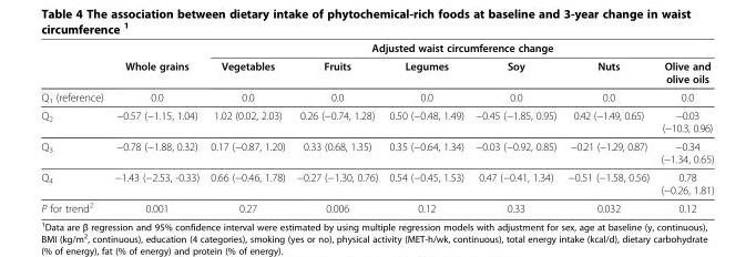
<table><thead><tr><td rowspan="2"></td><td rowspan="2">Whole grains</td><td colspan="6">Adjusted waist circumference change</td></tr><tr><td>Vegetables</td><td>Fruits</td><td>Legumes</td><td>Soy</td><td>Nuts</td><td>Olive and olive oils</td></tr></thead><tbody><tr><td>Q<sub>1</sub> (reference)</td><td>0.0</td><td>0.0</td><td>0.0</td><td>0.0</td><td>0.0</td><td>0.0</td><td>0.0</td></tr><tr><td>Q<sub>2</sub></td><td>−0.57 (−1.15, 1.04)</td><td>1.02 (0.02, 2.03)</td><td>0.26 (−0.74, 1.28)</td><td>0.50 (−0.48, 1.49)</td><td>−0.45 (−1.85, 0.95)</td><td>0.42 (−1.49, 0.65)</td><td>−0.03 (−10.3, 0.96)</td></tr><tr><td>Q<sub>3</sub></td><td>−0.78 (−1.88, 0.32)</td><td>0.17 (−0.87, 1.20)</td><td>0.33 (0.68, 1.35)</td><td>0.35 (−0.64, 1.34)</td><td>−0.03 (−0.92, 0.85)</td><td>−0.21 (−1.29, 0.87)</td><td>−0.34 (−1.34, 0.65)</td></tr><tr><td>Q<sub>4</sub></td><td>−1.43 (−2.53, -0.33)</td><td>0.66 (−0.46, 1.78)</td><td>−0.27 (−1.30, 0.76)</td><td>0.54 (−0.45, 1.53)</td><td>0.47 (−0.41, 1.34)</td><td>−0.51 (−1.58, 0.56)</td><td>0.78 (−0.26, 1.81)</td></tr><tr><td>P for trend<sup>2</sup></td><td>0.001</td><td>0.27</td><td>0.006</td><td>0.12</td><td>0.33</td><td>0.032</td><td>0.12</td></tr></tbody></table>